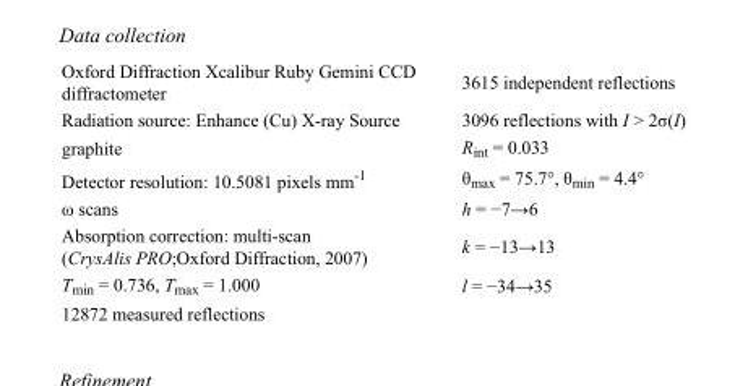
<table><tbody><tr><td>Oxford Diffraction Xcalibur Ruby Gemini CCD diffractometer</td><td>3615 independent reflections</td></tr><tr><td>Radiation source: Enhance (Cu) X-ray Source</td><td>3096 reflections with I &gt; 2σ(I)</td></tr><tr><td>graphite</td><td>R<sub>int</sub> = 0.033</td></tr><tr><td>Detector resolution: 10.5081 pixels mm<sup>-1</sup></td><td>θ<sub>max</sub> = 75.7°, θ<sub>min</sub> = 4.4°</td></tr><tr><td>ω scans</td><td>h = −7→6</td></tr><tr><td>Absorption correction: multi-scan (CrysAlis PRO;Oxford Diffraction, 2007)</td><td>k = −13→13</td></tr><tr><td>T<sub>min</sub> = 0.736, T<sub>max</sub> = 1.000</td><td>l = −34→35</td></tr><tr><td>12872 measured reflections</td><td></td></tr></tbody></table>